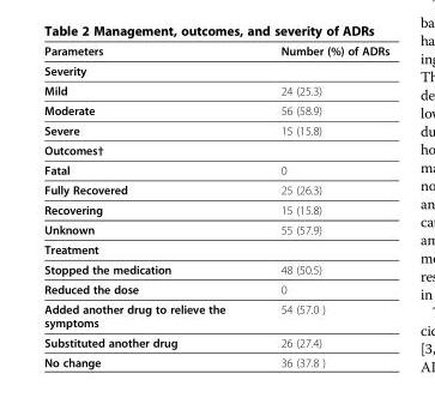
<table><thead><tr><td>Parameters</td><td>Number (%) of ADRs</td></tr></thead><tbody><tr><td colspan="2">Severity</td></tr><tr><td>Mild</td><td>24 (25.3)</td></tr><tr><td>Moderate</td><td>56 (58.9)</td></tr><tr><td>Severe</td><td>15 (15.8)</td></tr><tr><td colspan="2">Outcomes†</td></tr><tr><td>Fatal</td><td>0</td></tr><tr><td>Fully Recovered</td><td>25 (26.3)</td></tr><tr><td>Recovering</td><td>15 (15.8)</td></tr><tr><td>Unknown</td><td>55 (57.9)</td></tr><tr><td colspan="2">Treatment</td></tr><tr><td>Stopped the medication</td><td>48 (50.5)</td></tr><tr><td>Reduced the dose</td><td>0</td></tr><tr><td>Added another drug to relieve the symptoms</td><td>54 (57.0 )</td></tr><tr><td>Substituted another drug</td><td>26 (27.4)</td></tr><tr><td>No change</td><td>36 (37.8 )</td></tr></tbody></table>